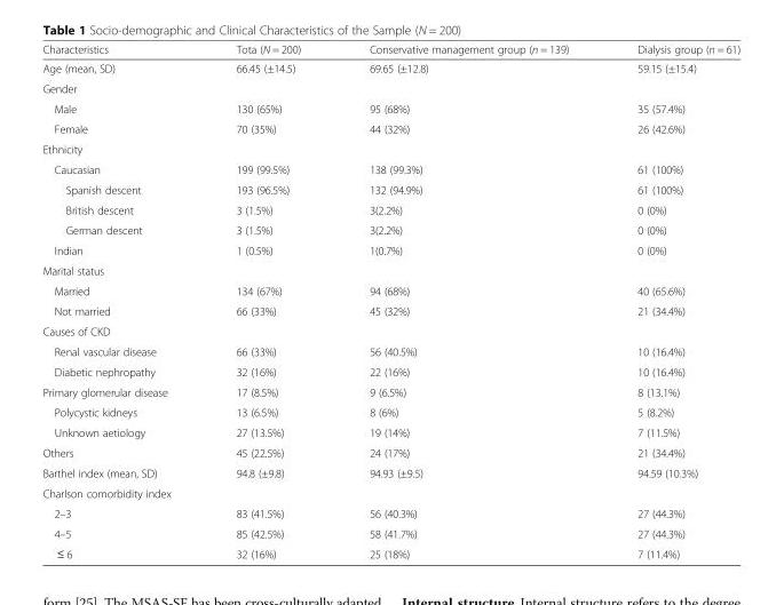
<table><thead><tr><td>Characteristics</td><td>Tota (N = 200)</td><td>Conservative management group (n = 139)</td><td>Dialysis group (n = 61)</td></tr></thead><tbody><tr><td>Age (mean, SD)</td><td>66.45 (±14.5)</td><td>69.65 (±12.8)</td><td>59.15 (±15.4)</td></tr><tr><td colspan="4">Gender</td></tr><tr><td>Male</td><td>130 (65%)</td><td>95 (68%)</td><td>35 (57.4%)</td></tr><tr><td>Female</td><td>70 (35%)</td><td>44 (32%)</td><td>26 (42.6%)</td></tr><tr><td colspan="4">Ethnicity</td></tr><tr><td>Caucasian</td><td>199 (99.5%)</td><td>138 (99.3%)</td><td>61 (100%)</td></tr><tr><td>Spanish descent</td><td>193 (96.5%)</td><td>132 (94.9%)</td><td>61 (100%)</td></tr><tr><td>British descent</td><td>3 (1.5%)</td><td>3(2.2%)</td><td>0 (0%)</td></tr><tr><td>German descent</td><td>3 (1.5%)</td><td>3(2.2%)</td><td>0 (0%)</td></tr><tr><td>Indian</td><td>1 (0.5%)</td><td>1(0.7%)</td><td>0 (0%)</td></tr><tr><td colspan="4">Marital status</td></tr><tr><td>Married</td><td>134 (67%)</td><td>94 (68%)</td><td>40 (65.6%)</td></tr><tr><td>Not married</td><td>66 (33%)</td><td>45 (32%)</td><td>21 (34.4%)</td></tr><tr><td colspan="4">Causes of CKD</td></tr><tr><td>Renal vascular disease</td><td>66 (33%)</td><td>56 (40.5%)</td><td>10 (16.4%)</td></tr><tr><td>Diabetic nephropathy</td><td>32 (16%)</td><td>22 (16%)</td><td>10 (16.4%)</td></tr><tr><td>Primary glomerular disease</td><td>17 (8.5%)</td><td>9 (6.5%)</td><td>8 (13.1%)</td></tr><tr><td>Polycystic kidneys</td><td>13 (6.5%)</td><td>8 (6%)</td><td>5 (8.2%)</td></tr><tr><td>Unknown aetiology</td><td>27 (13.5%)</td><td>19 (14%)</td><td>7 (11.5%)</td></tr><tr><td>Others</td><td>45 (22.5%)</td><td>24 (17%)</td><td>21 (34.4%)</td></tr><tr><td>Barthel index (mean, SD)</td><td>94.8 (±9.8)</td><td>94.93 (±9.5)</td><td>94.59 (10.3%)</td></tr><tr><td colspan="4">Charlson comorbidity index</td></tr><tr><td>2–3</td><td>83 (41.5%)</td><td>56 (40.3%)</td><td>27 (44.3%)</td></tr><tr><td>4–5</td><td>85 (42.5%)</td><td>58 (41.7%)</td><td>27 (44.3%)</td></tr><tr><td>≤ 6</td><td>32 (16%)</td><td>25 (18%)</td><td>7 (11.4%)</td></tr></tbody></table>